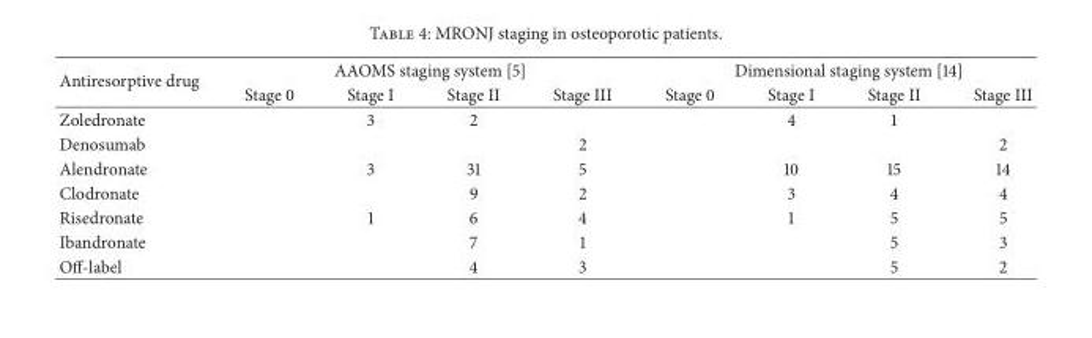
<table><thead><tr><td rowspan="2">Antiresorptive drug</td><td colspan="4">AAOMS staging system [5]</td><td colspan="4">Dimensional staging system [14]</td></tr><tr><td>Stage 0</td><td>Stage I</td><td>Stage II</td><td>Stage III</td><td>Stage 0</td><td>Stage I</td><td>Stage II</td><td>Stage III</td></tr></thead><tbody><tr><td>Zoledronate</td><td></td><td>3</td><td>2</td><td></td><td></td><td>4</td><td>1</td><td></td></tr><tr><td>Denosumab</td><td></td><td></td><td></td><td>2</td><td></td><td></td><td></td><td>2</td></tr><tr><td>Alendronate</td><td></td><td>3</td><td>31</td><td>5</td><td></td><td>10</td><td>15</td><td>14</td></tr><tr><td>Clodronate</td><td></td><td></td><td>9</td><td>2</td><td></td><td>3</td><td>4</td><td>4</td></tr><tr><td>Risedronate</td><td></td><td>1</td><td>6</td><td>4</td><td></td><td>1</td><td>5</td><td>5</td></tr><tr><td>Ibandronate</td><td></td><td></td><td>7</td><td>1</td><td></td><td></td><td>5</td><td>3</td></tr><tr><td>Off-label</td><td></td><td></td><td>4</td><td>3</td><td></td><td></td><td>5</td><td>2</td></tr></tbody></table>